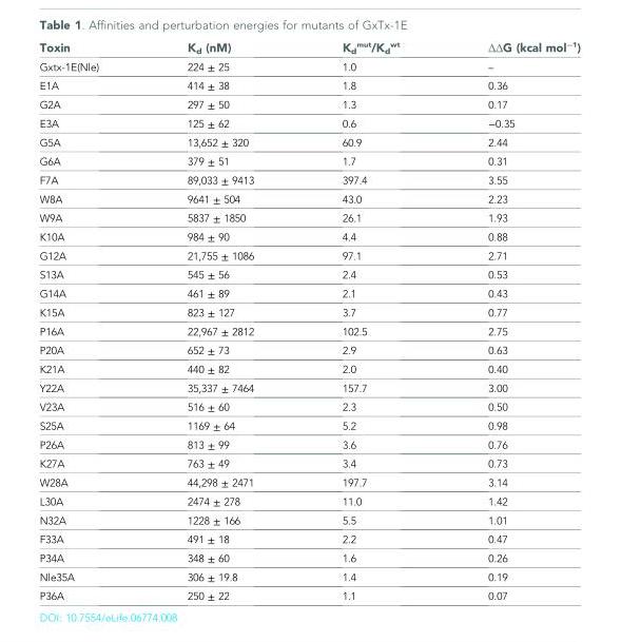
<table><thead><tr><td>Toxin</td><td>K<sub>d</sub> (nM)</td><td>K<sub>d</sub> <sup>mut</sup>/K<sub>d</sub> <sup>wt</sup></td><td>ΔΔG (kcal mol−1)</td></tr></thead><tbody><tr><td>Gxtx-1E(Nle)</td><td>224 ± 25</td><td>1.0</td><td>–</td></tr><tr><td>E1A</td><td>414 ± 38</td><td>1.8</td><td>0.36</td></tr><tr><td>G2A</td><td>297 ± 50</td><td>1.3</td><td>0.17</td></tr><tr><td>E3A</td><td>125 ± 62</td><td>0.6</td><td>−0.35</td></tr><tr><td>G5A</td><td>13,652 ± 320</td><td>60.9</td><td>2.44</td></tr><tr><td>G6A</td><td>379 ± 51</td><td>1.7</td><td>0.31</td></tr><tr><td>F7A</td><td>89,033 ± 9413</td><td>397.4</td><td>3.55</td></tr><tr><td>W8A</td><td>9641 ± 504</td><td>43.0</td><td>2.23</td></tr><tr><td>W9A</td><td>5837 ± 1850</td><td>26.1</td><td>1.93</td></tr><tr><td>K10A</td><td>984 ± 90</td><td>4.4</td><td>0.88</td></tr><tr><td>G12A</td><td>21,755 ± 1086</td><td>97.1</td><td>2.71</td></tr><tr><td>S13A</td><td>545 ± 56</td><td>2.4</td><td>0.53</td></tr><tr><td>G14A</td><td>461 ± 89</td><td>2.1</td><td>0.43</td></tr><tr><td>K15A</td><td>823 ± 127</td><td>3.7</td><td>0.77</td></tr><tr><td>P16A</td><td>22,967 ± 2812</td><td>102.5</td><td>2.75</td></tr><tr><td>P20A</td><td>652 ± 73</td><td>2.9</td><td>0.63</td></tr><tr><td>K21A</td><td>440 ± 82</td><td>2.0</td><td>0.40</td></tr><tr><td>Y22A</td><td>35,337 ± 7464</td><td>157.7</td><td>3.00</td></tr><tr><td>V23A</td><td>516 ± 60</td><td>2.3</td><td>0.50</td></tr><tr><td>S25A</td><td>1169 ± 64</td><td>5.2</td><td>0.98</td></tr><tr><td>P26A</td><td>813 ± 99</td><td>3.6</td><td>0.76</td></tr><tr><td>K27A</td><td>763 ± 49</td><td>3.4</td><td>0.73</td></tr><tr><td>W28A</td><td>44,298 ± 2471</td><td>197.7</td><td>3.14</td></tr><tr><td>L30A</td><td>2474 ± 278</td><td>11.0</td><td>1.42</td></tr><tr><td>N32A</td><td>1228 ± 166</td><td>5.5</td><td>1.01</td></tr><tr><td>F33A</td><td>491 ± 18</td><td>2.2</td><td>0.47</td></tr><tr><td>P34A</td><td>348 ± 60</td><td>1.6</td><td>0.26</td></tr><tr><td>Nle35A</td><td>306 ± 19.8</td><td>1.4</td><td>0.19</td></tr><tr><td>P36A</td><td>250 ± 22</td><td>1.1</td><td>0.07</td></tr></tbody></table>